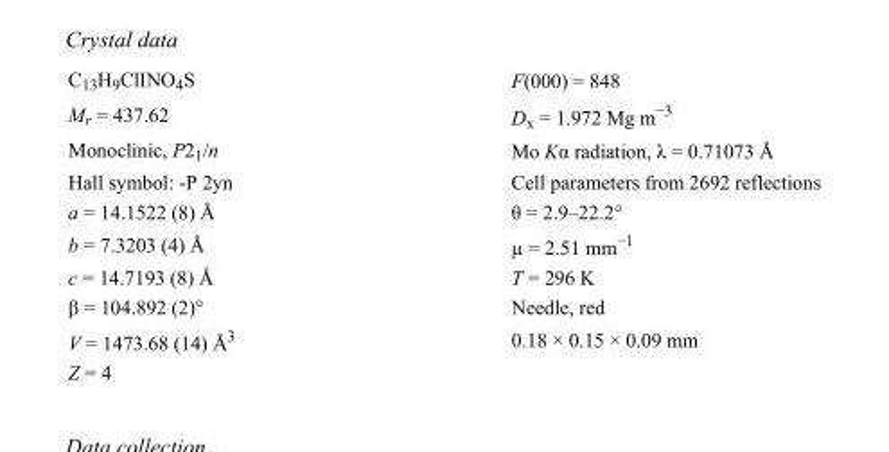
<table><tbody><tr><td>C<sub>13</sub>H<sub>9</sub>ClINO<sub>4</sub>S</td><td>F(000) = 848</td></tr><tr><td>M<sub>r</sub> = 437.62</td><td>D<sub>x</sub> = 1.972 Mg m<sup>−3</sup></td></tr><tr><td>Monoclinic, P2<sub>1</sub>/n</td><td>Mo Kα radiation, λ = 0.71073 Å</td></tr><tr><td>Hall symbol: -P 2yn</td><td>Cell parameters from 2692 reflections</td></tr><tr><td>a = 14.1522 (8) Å</td><td>θ = 2.9–22.2°</td></tr><tr><td>b = 7.3203 (4) Å</td><td>µ = 2.51 mm<sup>−1</sup></td></tr><tr><td>c = 14.7193 (8) Å</td><td>T = 296 K</td></tr><tr><td>β = 104.892 (2)°</td><td>Needle, red</td></tr><tr><td>V = 1473.68 (14) Å<sup>3</sup></td><td>0.18 × 0.15 × 0.09 mm</td></tr><tr><td>Z = 4</td><td></td></tr></tbody></table>